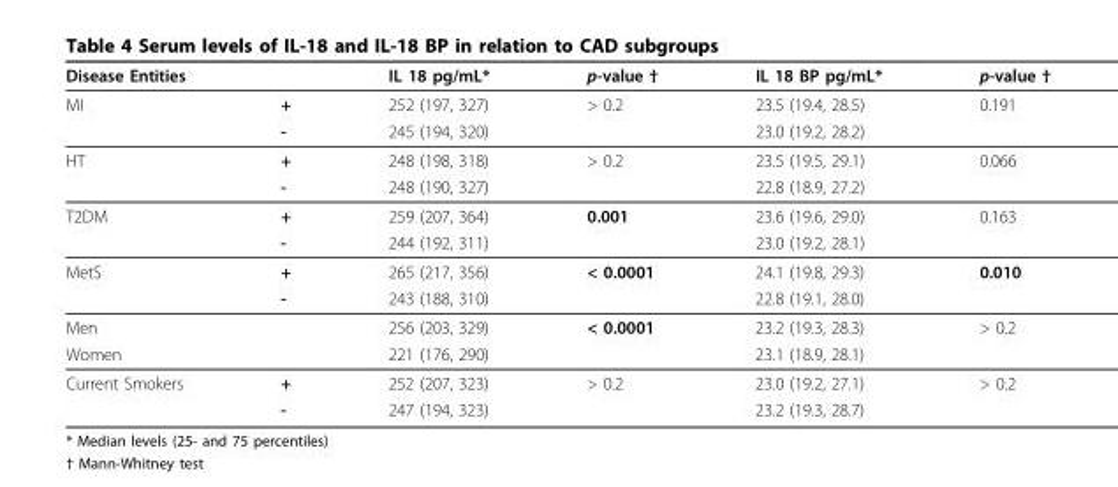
<table><thead><tr><td colspan="2">Disease Entities</td><td rowspan="2">IL 18 pg/mL* 252 (197, 327)</td><td rowspan="2">p-value † &gt; 0.2</td><td rowspan="2">IL 18 BP pg/mL* 23.5 (19.4, 28.5)</td><td rowspan="2">p-value † 0.191</td></tr><tr><td>MI</td><td>+</td></tr></thead><tbody><tr><td></td><td>-</td><td>245 (194, 320)</td><td></td><td>23.0 (19.2, 28.2)</td><td></td></tr><tr><td rowspan="2">HT</td><td>+</td><td>248 (198, 318)</td><td>&gt; 0.2</td><td>23.5 (19.5, 29.1)</td><td>0.066</td></tr><tr><td>-</td><td>248 (190, 327)</td><td></td><td>22.8 (18.9, 27.2)</td><td></td></tr><tr><td rowspan="2">T2DM</td><td>+</td><td>259 (207, 364)</td><td>0.001</td><td>23.6 (19.6, 29.0)</td><td>0.163</td></tr><tr><td>-</td><td>244 (192, 311)</td><td></td><td>23.0 (19.2, 28.1)</td><td></td></tr><tr><td rowspan="2">MetS</td><td>+</td><td>265 (217, 356)</td><td>&lt; 0.0001</td><td>24.1 (19.8, 29.3)</td><td>0.010</td></tr><tr><td>-</td><td>243 (188, 310)</td><td></td><td>22.8 (19.1, 28.0)</td><td></td></tr><tr><td>Men</td><td></td><td>256 (203, 329)</td><td>&lt; 0.0001</td><td>23.2 (19.3, 28.3)</td><td>&gt; 0.2</td></tr><tr><td>Women</td><td></td><td>221 (176, 290)</td><td></td><td>23.1 (18.9, 28.1)</td><td></td></tr><tr><td rowspan="2">Current Smokers</td><td>+</td><td>252 (207, 323)</td><td>&gt; 0.2</td><td>23.0 (19.2, 27.1)</td><td>&gt; 0.2</td></tr><tr><td>-</td><td>247 (194, 323)</td><td></td><td>23.2 (19.3, 28.7)</td><td></td></tr></tbody></table>